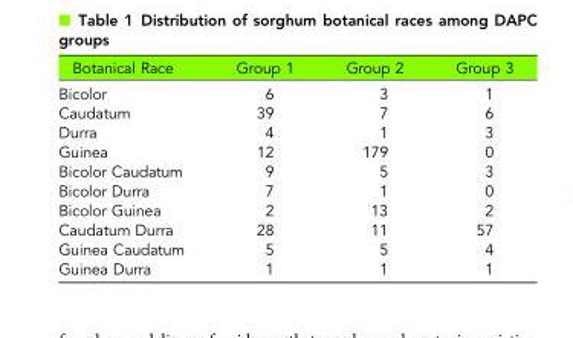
<table><thead><tr><td>Botanical Race</td><td>Group 1</td><td>Group 2</td><td>Group 3</td></tr></thead><tbody><tr><td>Bicolor</td><td>6</td><td>3</td><td>1</td></tr><tr><td>Caudatum</td><td>39</td><td>7</td><td>6</td></tr><tr><td>Durra</td><td>4</td><td>1</td><td>3</td></tr><tr><td>Guinea</td><td>12</td><td>179</td><td>0</td></tr><tr><td>Bicolor Caudatum</td><td>9</td><td>5</td><td>3</td></tr><tr><td>Bicolor Durra</td><td>7</td><td>1</td><td>0</td></tr><tr><td>Bicolor Guinea</td><td>2</td><td>13</td><td>2</td></tr><tr><td>Caudatum Durra</td><td>28</td><td>11</td><td>57</td></tr><tr><td>Guinea Caudatum</td><td>5</td><td>5</td><td>4</td></tr><tr><td>Guinea Durra</td><td>1</td><td>1</td><td>1</td></tr></tbody></table>